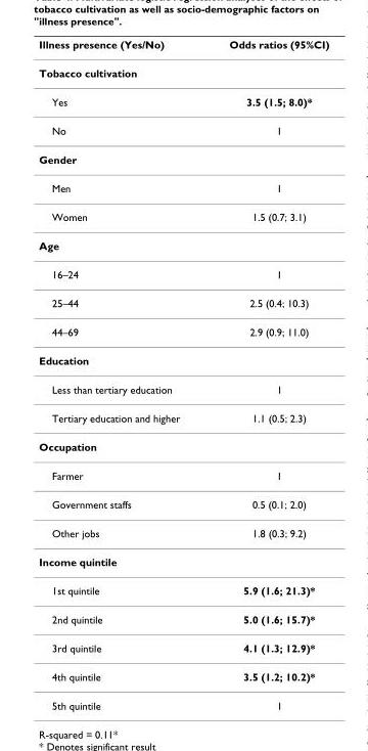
<table><thead><tr><td>Illness presence (Yes/No)</td><td>Odds ratios (95%CI)</td></tr></thead><tbody><tr><td colspan="2">Tobacco cultivation</td></tr><tr><td>Yes</td><td>3.5 (1.5; 8.0)*</td></tr><tr><td>No</td><td>1</td></tr><tr><td colspan="2">Gender</td></tr><tr><td>Men</td><td>1</td></tr><tr><td>Women</td><td>1.5 (0.7; 3.1)</td></tr><tr><td colspan="2">Age</td></tr><tr><td>16–24</td><td>1</td></tr><tr><td>25–44</td><td>2.5 (0.4; 10.3)</td></tr><tr><td>44–69</td><td>2.9 (0.9; 11.0)</td></tr><tr><td colspan="2">Education</td></tr><tr><td>Less than tertiary education</td><td>1</td></tr><tr><td>Tertiary education and higher</td><td>1.1 (0.5; 2.3)</td></tr><tr><td colspan="2">Occupation</td></tr><tr><td>Farmer</td><td>1</td></tr><tr><td>Government staffs</td><td>0.5 (0.1; 2.0)</td></tr><tr><td>Other jobs</td><td>1.8 (0.3; 9.2)</td></tr><tr><td colspan="2">Income quintile</td></tr><tr><td>1st quintile</td><td>5.9 (1.6; 21.3)*</td></tr><tr><td>2nd quintile</td><td>5.0 (1.6; 15.7)*</td></tr><tr><td>3rd quintile</td><td>4.1 (1.3; 12.9)*</td></tr><tr><td>4th quintile</td><td>3.5 (1.2; 10.2)*</td></tr><tr><td>5th quintile</td><td>1</td></tr></tbody></table>